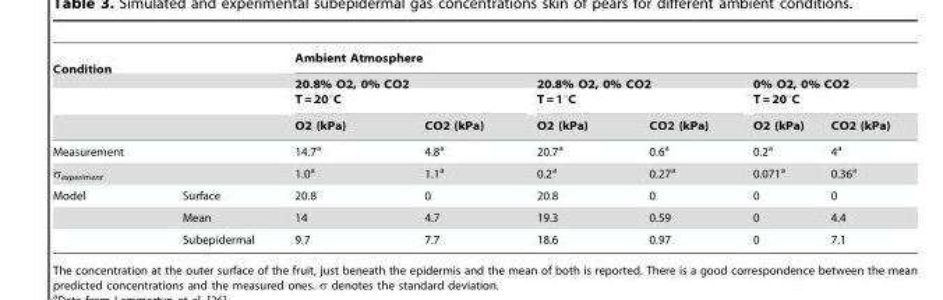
<table><thead><tr><td colspan="2">Condition</td><td colspan="6">Ambient Atmosphere</td></tr><tr><td rowspan="3"></td><td rowspan="3"></td><td rowspan="2" colspan="2">20.8% O2, 0% CO2 T = 20°C</td><td rowspan="2" colspan="2">20.8% O2, 0% CO2 T = 1°C</td><td rowspan="2" colspan="2">0% O2, 0% CO2 T = 20°C</td></tr><tr></tr><tr><td>O2 (kPa)</td><td>CO2 (kPa)</td><td>O2 (kPa)</td><td>CO2 (kPa)</td><td>O2 (kPa)</td><td>CO2 (kPa)</td></tr></thead><tbody><tr><td colspan="2">Measurement</td><td>14.7<sup>a</sup></td><td>4.8<sup>a</sup></td><td>20.7<sup>a</sup></td><td>0.6<sup>a</sup></td><td>0.2<sup>a</sup></td><td>4<sup>a</sup></td></tr><tr><td colspan="2">σ<sub>experiment</sub></td><td>1.0<sup>a</sup></td><td>1.1<sup>a</sup></td><td>0.2<sup>a</sup></td><td>0.27<sup>a</sup></td><td>0.071<sup>a</sup></td><td>0.36<sup>a</sup></td></tr><tr><td rowspan="3">Model</td><td>Surface</td><td>20.8</td><td>0</td><td>20.8</td><td>0</td><td>0</td><td>0</td></tr><tr><td>Mean</td><td>14</td><td>4.7</td><td>19.3</td><td>0.59</td><td>0</td><td>4.4</td></tr><tr><td>Subepidermal</td><td>9.7</td><td>7.7</td><td>18.6</td><td>0.97</td><td>0</td><td>7.1</td></tr></tbody></table>